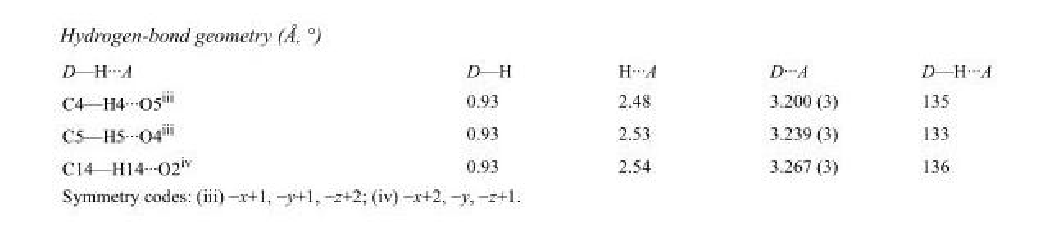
<table><tbody><tr><td>D—H···A</td><td>D—H</td><td>H···A</td><td>D···A</td><td>D—H···A</td></tr><tr><td>C4—H4···O5<sup>iii</sup></td><td>0.93</td><td>2.48</td><td>3.200 (3)</td><td>135</td></tr><tr><td>C5—H5···O4<sup>iii</sup></td><td>0.93</td><td>2.53</td><td>3.239 (3)</td><td>133</td></tr><tr><td>C14—H14···O2<sup>iv</sup></td><td>0.93</td><td>2.54</td><td>3.267 (3)</td><td>136</td></tr></tbody></table>